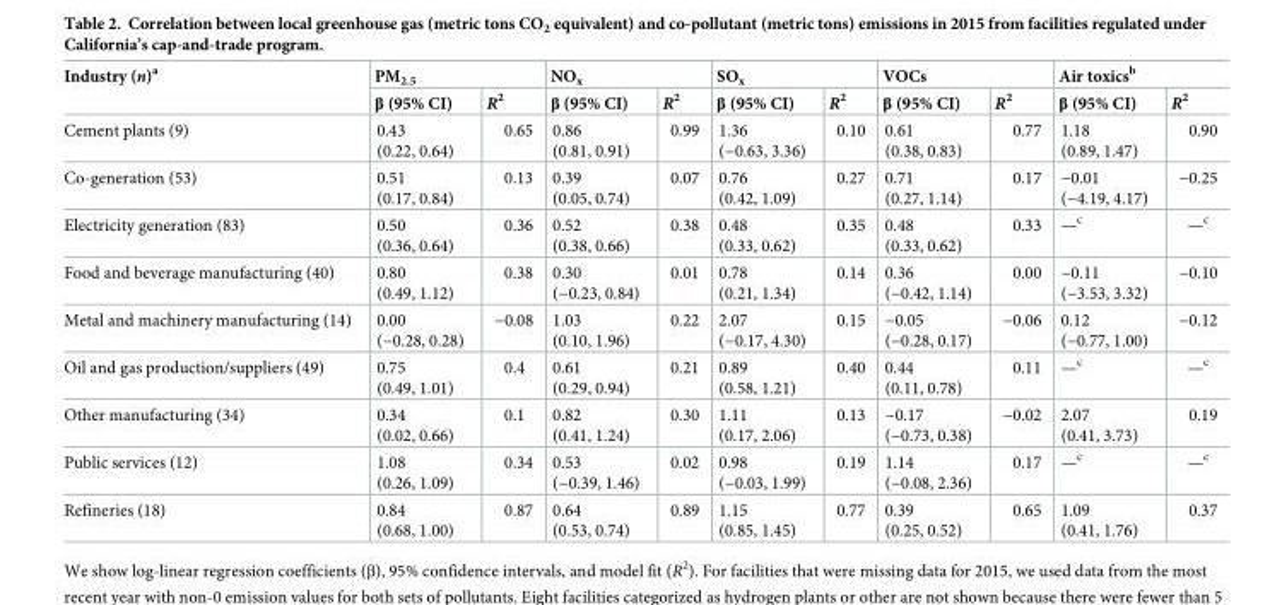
<table><thead><tr><td rowspan="2">Industry (n)<sup>a</sup></td><td colspan="2">PM<sub>2.5</sub></td><td colspan="2">NO<sub>x</sub></td><td colspan="2">SO<sub>x</sub></td><td colspan="2">VOCs</td><td colspan="2">Air toxics<sup>b</sup></td></tr><tr><td>β (95% CI)</td><td>R<sup>2</sup></td><td>β (95% CI)</td><td>R<sup>2</sup></td><td>β (95% CI)</td><td>R<sup>2</sup></td><td>β (95% CI)</td><td>R<sup>2</sup></td><td>β (95% CI)</td><td>R<sup>2</sup></td></tr></thead><tbody><tr><td>Cement plants (9)</td><td>0.43 (0.22, 0.64)</td><td>0.65</td><td>0.86 (0.81, 0.91)</td><td>0.99</td><td>1.36 (−0.63, 3.36)</td><td>0.10</td><td>0.61 (0.38, 0.83)</td><td>0.77</td><td>1.18 (0.89, 1.47)</td><td>0.90</td></tr><tr><td>Co-generation (53)</td><td>0.51 (0.17, 0.84)</td><td>0.13</td><td>0.39 (0.05, 0.74)</td><td>0.07</td><td>0.76 (0.42, 1.09)</td><td>0.27</td><td>0.71 (0.27, 1.14)</td><td>0.17</td><td>−0.01 (−4.19, 4.17)</td><td>−0.25</td></tr><tr><td>Electricity generation (83)</td><td>0.50 (0.36, 0.64)</td><td>0.36</td><td>0.52 (0.38, 0.66)</td><td>0.38</td><td>0.48 (0.33, 0.62)</td><td>0.35</td><td>0.48 (0.33, 0.62)</td><td>0.33</td><td>—<sup>c</sup></td><td>—<sup>c</sup></td></tr><tr><td>Food and beverage manufacturing (40)</td><td>0.80 (0.49, 1.12)</td><td>0.38</td><td>0.30 (−0.23, 0.84)</td><td>0.01</td><td>0.78 (0.21, 1.34)</td><td>0.14</td><td>0.36 (−0.42, 1.14)</td><td>0.00</td><td>−0.11 (−3.53, 3.32)</td><td>−0.10</td></tr><tr><td>Metal and machinery manufacturing (14)</td><td>0.00 (−0.28, 0.28)</td><td>−0.08</td><td>1.03 (0.10, 1.96)</td><td>0.22</td><td>2.07 (−0.17, 4.30)</td><td>0.15</td><td>−0.05 (−0.28, 0.17)</td><td>−0.06</td><td>0.12 (−0.77, 1.00)</td><td>−0.12</td></tr><tr><td>Oil and gas production/suppliers (49)</td><td>0.75 (0.49, 1.01)</td><td>0.4</td><td>0.61 (0.29, 0.94)</td><td>0.21</td><td>0.89 (0.58, 1.21)</td><td>0.40</td><td>0.44 (0.11, 0.78)</td><td>0.11</td><td>—<sup>c</sup></td><td>—<sup>c</sup></td></tr><tr><td>Other manufacturing (34)</td><td>0.34 (0.02, 0.66)</td><td>0.1</td><td>0.82 (0.41, 1.24)</td><td>0.30</td><td>1.11 (0.17, 2.06)</td><td>0.13</td><td>−0.17 (−0.73, 0.38)</td><td>−0.02</td><td>2.07 (0.41, 3.73)</td><td>0.19</td></tr><tr><td>Public services (12)</td><td>1.08 (0.26, 1.09)</td><td>0.34</td><td>0.53 (−0.39, 1.46)</td><td>0.02</td><td>0.98 (−0.03, 1.99)</td><td>0.19</td><td>1.14 (−0.08, 2.36)</td><td>0.17</td><td>—<sup>c</sup></td><td>—<sup>c</sup></td></tr><tr><td>Refineries (18)</td><td>0.84 (0.68, 1.00)</td><td>0.87</td><td>0.64 (0.53, 0.74)</td><td>0.89</td><td>1.15 (0.85, 1.45)</td><td>0.77</td><td>0.39 (0.25, 0.52)</td><td>0.65</td><td>1.09 (0.41, 1.76)</td><td>0.37</td></tr></tbody></table>